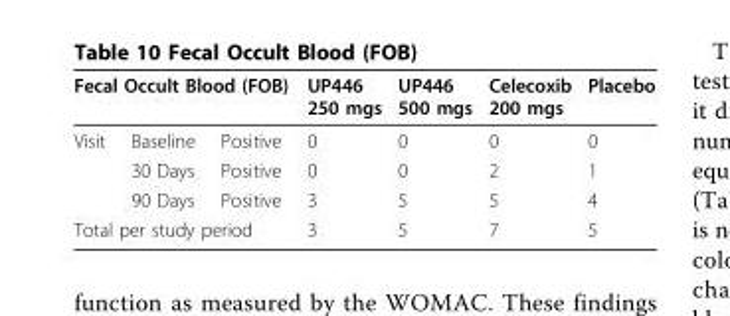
<table><thead><tr><td colspan="3">Fecal Occult Blood (FOB)</td><td rowspan="2">UP446 250 mgs 0</td><td rowspan="2">UP446 500 mgs 0</td><td rowspan="2">Celecoxib 200 mgs 0</td><td rowspan="2">Placebo 0</td></tr><tr><td>Visit</td><td>Baseline</td><td>Positive</td></tr></thead><tbody><tr><td></td><td>30 Days</td><td>Positive</td><td>0</td><td>0</td><td>2</td><td>1</td></tr><tr><td></td><td>90 Days</td><td>Positive</td><td>3</td><td>5</td><td>5</td><td>4</td></tr><tr><td colspan="3">Total per study period</td><td>3</td><td>5</td><td>7</td><td>5</td></tr></tbody></table>